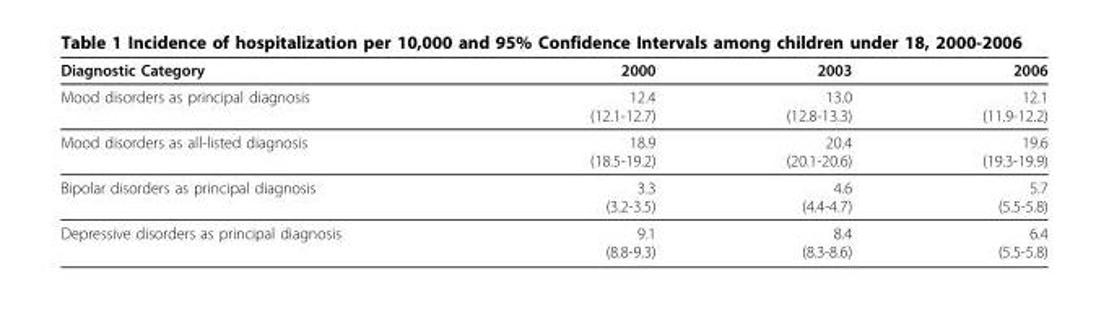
<table><thead><tr><td>Diagnostic Category</td><td>2000</td><td>2003</td><td>2006</td></tr></thead><tbody><tr><td>Mood disorders as principal diagnosis</td><td>12.4 (12.1-12.7)</td><td>13.0 (12.8-13.3)</td><td>12.1 (11.9-12.2)</td></tr><tr><td>Mood disorders as all-listed diagnosis</td><td>18.9 (18.5-19.2)</td><td>20.4 (20.1-20.6)</td><td>19.6 (19.3-19.9)</td></tr><tr><td>Bipolar disorders as principal diagnosis</td><td>3.3 (3.2-3.5)</td><td>4.6 (4.4-4.7)</td><td>5.7 (5.5-5.8)</td></tr><tr><td>Depressive disorders as principal diagnosis</td><td>9.1 (8.8-9.3)</td><td>8.4 (8.3-8.6)</td><td>6.4 (5.5-5.8)</td></tr></tbody></table>